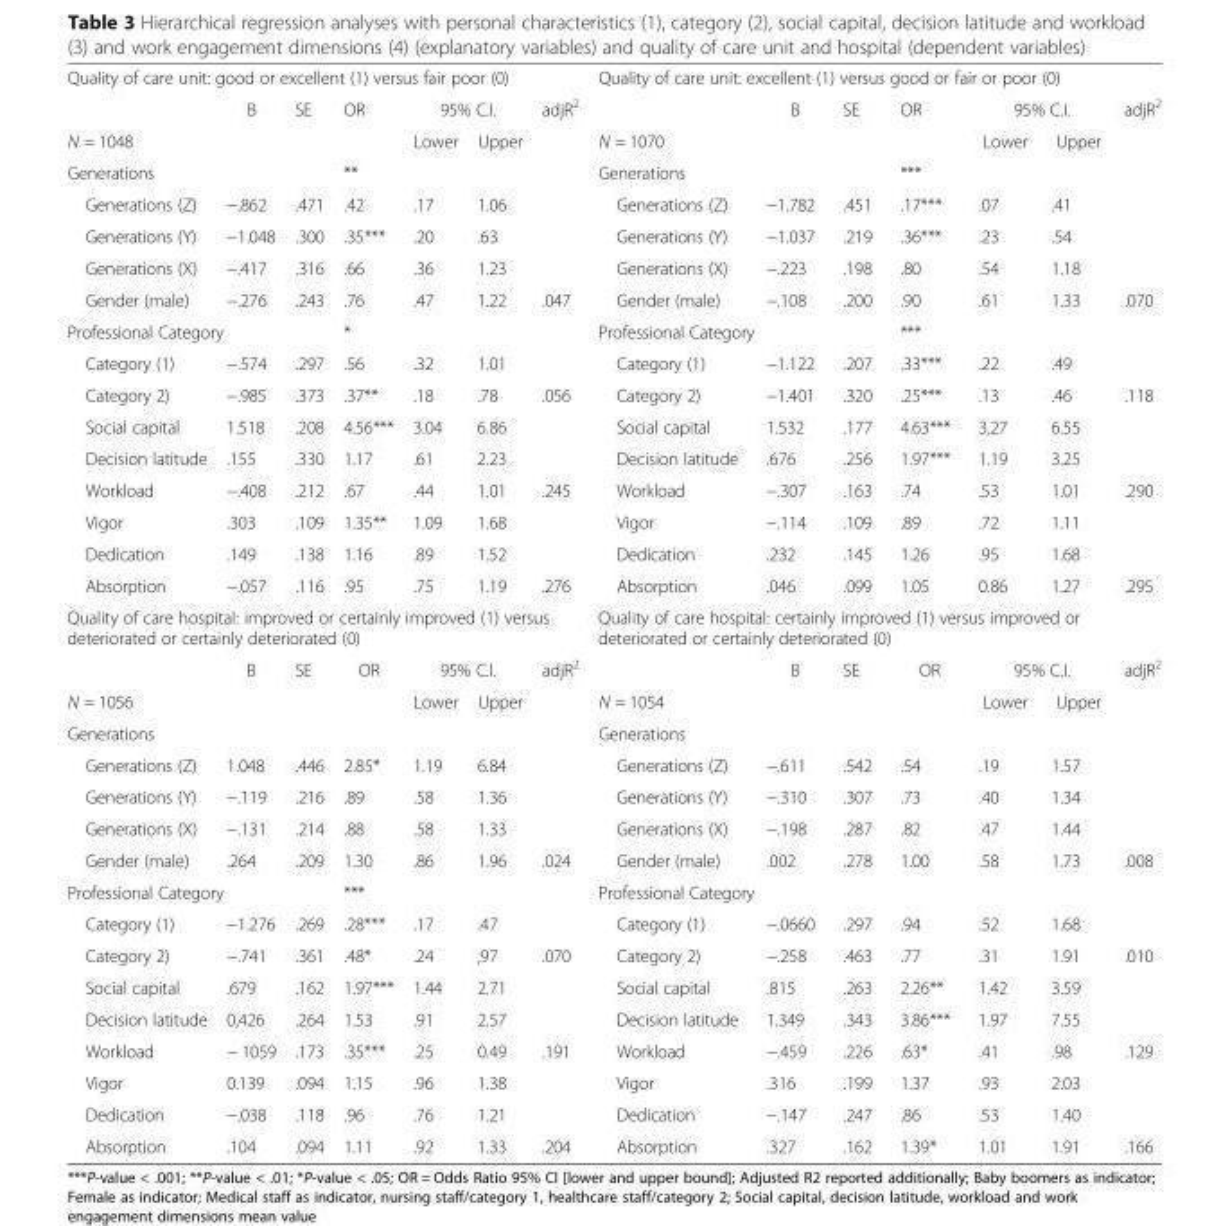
<table><tbody><tr><td colspan="7">Quality of care unit: good or excellent (1) versus fair poor (0)</td><td colspan="6">Quality of care unit: excellent (1) versus good or fair or poor (0)</td><td></td></tr><tr><td></td><td>B</td><td>SE</td><td>OR</td><td colspan="2">95% C.I.</td><td>adjR<sup>2</sup></td><td></td><td>B</td><td>SE</td><td>OR</td><td colspan="2">95% C.I.</td><td>adjR<sup>2</sup></td></tr><tr><td>N = 1048</td><td></td><td></td><td></td><td>Lower</td><td>Upper</td><td></td><td>N = 1070</td><td></td><td></td><td></td><td>Lower</td><td>Upper</td><td></td></tr><tr><td>Generations</td><td></td><td></td><td>**</td><td></td><td></td><td></td><td>Generations</td><td></td><td></td><td>***</td><td></td><td></td><td></td></tr><tr><td>Generations (Z)</td><td>−.862</td><td>.471</td><td>.42</td><td>.17</td><td>1.06</td><td></td><td>Generations (Z)</td><td>−1.782</td><td>.451</td><td>.17***</td><td>.07</td><td>.41</td><td></td></tr><tr><td>Generations (Y)</td><td>−1.048</td><td>.300</td><td>.35***</td><td>.20</td><td>.63</td><td></td><td>Generations (Y)</td><td>−1.037</td><td>.219</td><td>.36***</td><td>.23</td><td>.54</td><td></td></tr><tr><td>Generations (X)</td><td>−.417</td><td>.316</td><td>.66</td><td>.36</td><td>1.23</td><td></td><td>Generations (X)</td><td>−.223</td><td>.198</td><td>.80</td><td>.54</td><td>1.18</td><td></td></tr><tr><td>Gender (male)</td><td>−.276</td><td>.243</td><td>.76</td><td>.47</td><td>1.22</td><td>.047</td><td>Gender (male)</td><td>−.108</td><td>.200</td><td>.90</td><td>.61</td><td>1.33</td><td>.070</td></tr><tr><td colspan="2">Professional Category</td><td></td><td>*</td><td></td><td></td><td></td><td colspan="2">Professional Category</td><td></td><td>***</td><td></td><td></td><td></td></tr><tr><td>Category (1)</td><td>−.574</td><td>.297</td><td>.56</td><td>.32</td><td>1.01</td><td></td><td>Category (1)</td><td>−1.122</td><td>.207</td><td>.33***</td><td>.22</td><td>.49</td><td></td></tr><tr><td>Category 2)</td><td>−.985</td><td>.373</td><td>.37**</td><td>.18</td><td>.78</td><td>.056</td><td>Category 2)</td><td>−1.401</td><td>.320</td><td>.25***</td><td>.13</td><td>.46</td><td>.118</td></tr><tr><td>Social capital</td><td>1.518</td><td>.208</td><td>4.56***</td><td>3.04</td><td>6.86</td><td></td><td>Social capital</td><td>1.532</td><td>.177</td><td>4.63***</td><td>3.27</td><td>6.55</td><td></td></tr><tr><td>Decision latitude</td><td>.155</td><td>.330</td><td>1.17</td><td>.61</td><td>2.23</td><td></td><td>Decision latitude</td><td>.676</td><td>.256</td><td>1.97***</td><td>1.19</td><td>3.25</td><td></td></tr><tr><td>Workload</td><td>−.408</td><td>.212</td><td>.67</td><td>.44</td><td>1.01</td><td>.245</td><td>Workload</td><td>−.307</td><td>.163</td><td>.74</td><td>.53</td><td>1.01</td><td>.290</td></tr><tr><td>Vigor</td><td>.303</td><td>.109</td><td>1.35**</td><td>1.09</td><td>1.68</td><td></td><td>Vigor</td><td>−.114</td><td>.109</td><td>.89</td><td>.72</td><td>1.11</td><td></td></tr><tr><td>Dedication</td><td>.149</td><td>.138</td><td>1.16</td><td>.89</td><td>1.52</td><td></td><td>Dedication</td><td>.232</td><td>.145</td><td>1.26</td><td>.95</td><td>1.68</td><td></td></tr><tr><td>Absorption</td><td>−.057</td><td>.116</td><td>.95</td><td>.75</td><td>1.19</td><td>.276</td><td>Absorption</td><td>.046</td><td>.099</td><td>1.05</td><td>0.86</td><td>1.27</td><td>.295</td></tr><tr><td colspan="7">Quality of care hospital: improved or certainly improved (1) versus deteriorated or certainly deteriorated (0)</td><td colspan="6">Quality of care hospital: certainly improved (1) versus improved or deteriorated or certainly deteriorated (0)</td><td></td></tr><tr><td></td><td>B</td><td>SE</td><td>OR</td><td colspan="2">95% C.I.</td><td>adjR<sup>2</sup></td><td></td><td>B</td><td>SE</td><td>OR</td><td colspan="2">95% C.I.</td><td>adjR<sup>2</sup></td></tr><tr><td>N = 1056</td><td></td><td></td><td></td><td>Lower</td><td>Upper</td><td></td><td>N = 1054</td><td></td><td></td><td></td><td>Lower</td><td>Upper</td><td></td></tr><tr><td>Generations</td><td></td><td></td><td></td><td></td><td></td><td></td><td>Generations</td><td></td><td></td><td></td><td></td><td></td><td></td></tr><tr><td>Generations (Z)</td><td>1.048</td><td>.446</td><td>2.85*</td><td>1.19</td><td>6.84</td><td></td><td>Generations (Z)</td><td>−.611</td><td>.542</td><td>.54</td><td>.19</td><td>1.57</td><td></td></tr><tr><td>Generations (Y)</td><td>−.119</td><td>.216</td><td>.89</td><td>.58</td><td>1.36</td><td></td><td>Generations (Y)</td><td>−.310</td><td>.307</td><td>.73</td><td>.40</td><td>1.34</td><td></td></tr><tr><td>Generations (X)</td><td>−.131</td><td>.214</td><td>.88</td><td>.58</td><td>1.33</td><td></td><td>Generations (X)</td><td>−.198</td><td>.287</td><td>.82</td><td>.47</td><td>1.44</td><td></td></tr><tr><td>Gender (male)</td><td>.264</td><td>.209</td><td>1.30</td><td>.86</td><td>1.96</td><td>.024</td><td>Gender (male)</td><td>.002</td><td>.278</td><td>1.00</td><td>.58</td><td>1.73</td><td>.008</td></tr><tr><td colspan="2">Professional Category</td><td></td><td>***</td><td></td><td></td><td></td><td colspan="2">Professional Category</td><td></td><td></td><td></td><td></td><td></td></tr><tr><td>Category (1)</td><td>−1.276</td><td>.269</td><td>.28***</td><td>.17</td><td>.47</td><td></td><td>Category (1)</td><td>−.0660</td><td>.297</td><td>.94</td><td>.52</td><td>1.68</td><td></td></tr><tr><td>Category 2)</td><td>−.741</td><td>.361</td><td>.48*</td><td>.24</td><td>;97</td><td>.070</td><td>Category 2)</td><td>−.258</td><td>.463</td><td>.77</td><td>.31</td><td>1.91</td><td>.010</td></tr><tr><td>Social capital</td><td>.679</td><td>.162</td><td>1.97***</td><td>1.44</td><td>2.71</td><td></td><td>Social capital</td><td>.815</td><td>.263</td><td>2.26**</td><td>1.42</td><td>3.59</td><td></td></tr><tr><td>Decision latitude</td><td>0,426</td><td>.264</td><td>1.53</td><td>.91</td><td>2.57</td><td></td><td>Decision latitude</td><td>1.349</td><td>.343</td><td>3.86***</td><td>1.97</td><td>7.55</td><td></td></tr><tr><td>Workload</td><td>− 1059</td><td>.173</td><td>.35***</td><td>.25</td><td>0.49</td><td>.191</td><td>Workload</td><td>−.459</td><td>.226</td><td>.63*</td><td>.41</td><td>.98</td><td>.129</td></tr><tr><td>Vigor</td><td>0.139</td><td>.094</td><td>1.15</td><td>.96</td><td>1.38</td><td></td><td>Vigor</td><td>.316</td><td>.199</td><td>1.37</td><td>.93</td><td>2.03</td><td></td></tr><tr><td>Dedication</td><td>−.038</td><td>.118</td><td>.96</td><td>.76</td><td>1.21</td><td></td><td>Dedication</td><td>−.147</td><td>.247</td><td>.86</td><td>.53</td><td>1.40</td><td></td></tr><tr><td>Absorption</td><td>.104</td><td>.094</td><td>1.11</td><td>.92</td><td>1.33</td><td>.204</td><td>Absorption</td><td>.327</td><td>.162</td><td>1.39*</td><td>1.01</td><td>1.91</td><td>.166</td></tr></tbody></table>